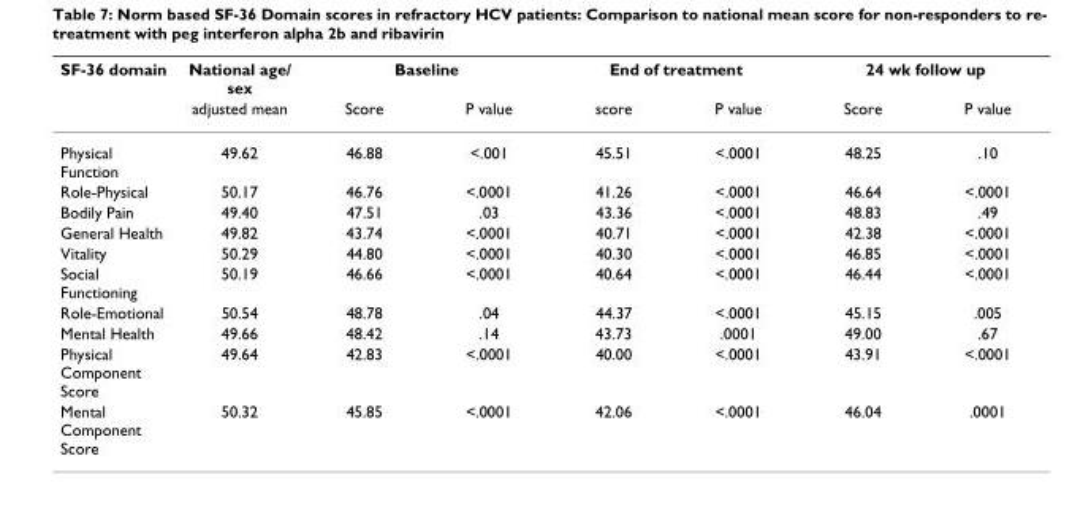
<table><thead><tr><td rowspan="2">SF-36 domain</td><td rowspan="2">National age/ sex adjusted mean</td><td colspan="2">Baseline</td><td colspan="2">End of treatment</td><td colspan="2">24 wk follow up</td></tr><tr><td>Score</td><td>P value</td><td>score</td><td>P value</td><td>Score</td><td>P value</td></tr></thead><tbody><tr><td>Physical Function</td><td>49.62</td><td>46.88</td><td>&lt;.001</td><td>45.51</td><td>&lt;.0001</td><td>48.25</td><td>.10</td></tr><tr><td>Role-Physical</td><td>50.17</td><td>46.76</td><td>&lt;.0001</td><td>41.26</td><td>&lt;.0001</td><td>46.64</td><td>&lt;.0001</td></tr><tr><td>Bodily Pain</td><td>49.40</td><td>47.51</td><td>.03</td><td>43.36</td><td>&lt;.0001</td><td>48.83</td><td>.49</td></tr><tr><td>General Health</td><td>49.82</td><td>43.74</td><td>&lt;.0001</td><td>40.71</td><td>&lt;.0001</td><td>42.38</td><td>&lt;.0001</td></tr><tr><td>Vitality</td><td>50.29</td><td>44.80</td><td>&lt;.0001</td><td>40.30</td><td>&lt;.0001</td><td>46.85</td><td>&lt;.0001</td></tr><tr><td>Social Functioning</td><td>50.19</td><td>46.66</td><td>&lt;.0001</td><td>40.64</td><td>&lt;.0001</td><td>46.44</td><td>&lt;.0001</td></tr><tr><td>Role-Emotional</td><td>50.54</td><td>48.78</td><td>.04</td><td>44.37</td><td>&lt;.0001</td><td>45.15</td><td>.005</td></tr><tr><td>Mental Health</td><td>49.66</td><td>48.42</td><td>.14</td><td>43.73</td><td>.0001</td><td>49.00</td><td>.67</td></tr><tr><td>Physical Component Score</td><td>49.64</td><td>42.83</td><td>&lt;.0001</td><td>40.00</td><td>&lt;.0001</td><td>43.91</td><td>&lt;.0001</td></tr><tr><td>Mental Component Score</td><td>50.32</td><td>45.85</td><td>&lt;.0001</td><td>42.06</td><td>&lt;.0001</td><td>46.04</td><td>.0001</td></tr></tbody></table>